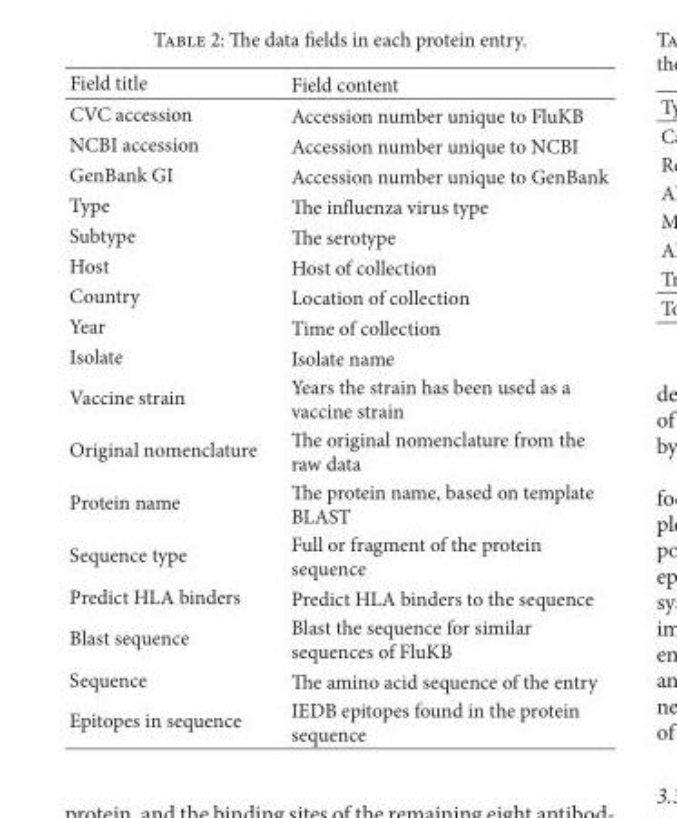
<table><thead><tr><td>Field title</td><td>Field content</td></tr></thead><tbody><tr><td>CVC accession</td><td>Accession number unique to FluKB</td></tr><tr><td>NCBI accession</td><td>Accession number unique to NCBI</td></tr><tr><td>GenBank GI</td><td>Accession number unique to GenBank</td></tr><tr><td>Type</td><td>The influenza virus type</td></tr><tr><td>Subtype</td><td>The serotype</td></tr><tr><td>Host</td><td>Host of collection</td></tr><tr><td>Country</td><td>Location of collection</td></tr><tr><td>Year</td><td>Time of collection</td></tr><tr><td>Isolate</td><td>Isolate name</td></tr><tr><td>Vaccine strain</td><td>Years the strain has been used as a vaccine strain</td></tr><tr><td>Original nomenclature</td><td>The original nomenclature from the raw data</td></tr><tr><td>Protein name</td><td>The protein name, based on template BLAST</td></tr><tr><td>Sequence type</td><td>Full or fragment of the protein sequence</td></tr><tr><td>Predict HLA binders</td><td>Predict HLA binders to the sequence</td></tr><tr><td>Blast sequence</td><td>Blast the sequence for similar sequences of FluKB</td></tr><tr><td>Sequence</td><td>The amino acid sequence of the entry</td></tr><tr><td>Epitopes in sequence</td><td>IEDB epitopes found in the protein sequence</td></tr></tbody></table>